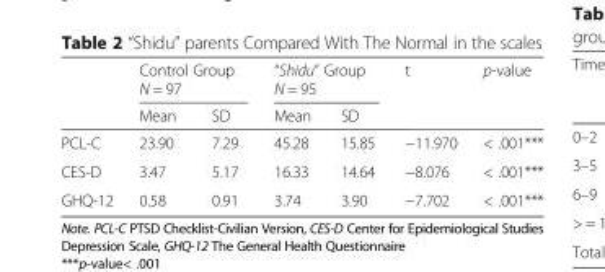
<table><thead><tr><td rowspan="2"></td><td colspan="2">Control Group N = 97</td><td colspan="2">“Shidu” Group N = 95</td><td rowspan="2">t</td><td rowspan="2">p-value</td></tr><tr><td>Mean</td><td>SD</td><td>Mean</td><td>SD</td></tr></thead><tbody><tr><td>PCL-C</td><td>23.90</td><td>7.29</td><td>45.28</td><td>15.85</td><td>−11.970</td><td>&lt; .001***</td></tr><tr><td>CES-D</td><td>3.47</td><td>5.17</td><td>16.33</td><td>14.64</td><td>−8.076</td><td>&lt; .001***</td></tr><tr><td>GHQ-12</td><td>0.58</td><td>0.91</td><td>3.74</td><td>3.90</td><td>−7.702</td><td>&lt; .001***</td></tr></tbody></table>